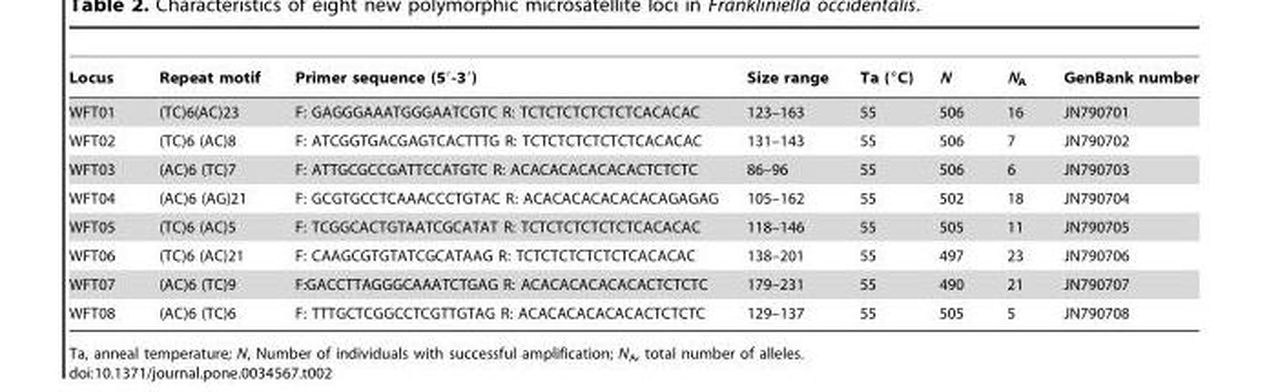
<table><thead><tr><td>Locus</td><td>Repeat motif</td><td>Primer sequence (5′-3′)</td><td>Size range</td><td>Ta (°C)</td><td>N</td><td>N<sub>A</sub></td><td>GenBank number</td></tr></thead><tbody><tr><td>WFT01</td><td>(TC)6(AC)23</td><td>F: GAGGGAAATGGGAATCGTC R: TCTCTCTCTCTCTCACACAC</td><td>123–163</td><td>55</td><td>506</td><td>16</td><td>JN790701</td></tr><tr><td>WFT02</td><td>(TC)6 (AC)8</td><td>F: ATCGGTGACGAGTCACTTTG R: TCTCTCTCTCTCTCACACAC</td><td>131–143</td><td>55</td><td>506</td><td>7</td><td>JN790702</td></tr><tr><td>WFT03</td><td>(AC)6 (TC)7</td><td>F: ATTGCGCCGATTCCATGTC R: ACACACACACACACTCTCTC</td><td>86–96</td><td>55</td><td>506</td><td>6</td><td>JN790703</td></tr><tr><td>WFT04</td><td>(AC)6 (AG)21</td><td>F: GCGTGCCTCAAACCCTGTAC R: ACACACACACACACAGAGAG</td><td>105–162</td><td>55</td><td>502</td><td>18</td><td>JN790704</td></tr><tr><td>WFT05</td><td>(TC)6 (AC)5</td><td>F: TCGGCACTGTAATCGCATAT R: TCTCTCTCTCTCTCACACAC</td><td>118–146</td><td>55</td><td>505</td><td>11</td><td>JN790705</td></tr><tr><td>WFT06</td><td>(TC)6 (AC)21</td><td>F: CAAGCGTGTATCGCATAAG R: TCTCTCTCTCTCTCACACAC</td><td>138–201</td><td>55</td><td>497</td><td>23</td><td>JN790706</td></tr><tr><td>WFT07</td><td>(AC)6 (TC)9</td><td>F:GACCTTAGGGCAAATCTGAG R: ACACACACACACACTCTCTC</td><td>179–231</td><td>55</td><td>490</td><td>21</td><td>JN790707</td></tr><tr><td>WFT08</td><td>(AC)6 (TC)6</td><td>F: TTTGCTCGGCCTCGTTGTAG R: ACACACACACACACTCTCTC</td><td>129–137</td><td>55</td><td>505</td><td>5</td><td>JN790708</td></tr></tbody></table>